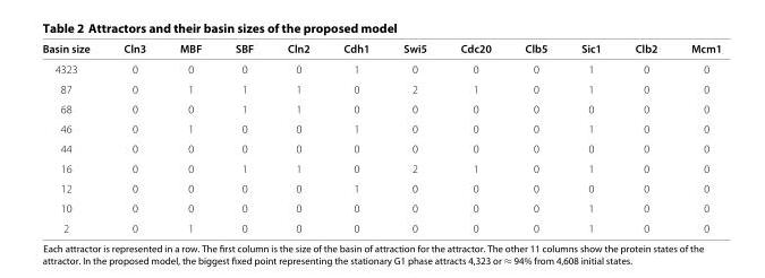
<table><thead><tr><td>Basin size</td><td>Cln3</td><td>MBF</td><td>SBF</td><td>Cln2</td><td>Cdh1</td><td>Swi5</td><td>Cdc20</td><td>Clb5</td><td>Sic1</td><td>Clb2</td><td>Mcm1</td></tr></thead><tbody><tr><td>4323</td><td>0</td><td>0</td><td>0</td><td>0</td><td>1</td><td>0</td><td>0</td><td>0</td><td>1</td><td>0</td><td>0</td></tr><tr><td>87</td><td>0</td><td>1</td><td>1</td><td>1</td><td>0</td><td>2</td><td>1</td><td>0</td><td>1</td><td>0</td><td>0</td></tr><tr><td>68</td><td>0</td><td>0</td><td>1</td><td>1</td><td>0</td><td>0</td><td>0</td><td>0</td><td>0</td><td>0</td><td>0</td></tr><tr><td>46</td><td>0</td><td>1</td><td>0</td><td>0</td><td>1</td><td>0</td><td>0</td><td>0</td><td>1</td><td>0</td><td>0</td></tr><tr><td>44</td><td>0</td><td>0</td><td>0</td><td>0</td><td>0</td><td>0</td><td>0</td><td>0</td><td>0</td><td>0</td><td>0</td></tr><tr><td>16</td><td>0</td><td>0</td><td>1</td><td>1</td><td>0</td><td>2</td><td>1</td><td>0</td><td>1</td><td>0</td><td>0</td></tr><tr><td>12</td><td>0</td><td>0</td><td>0</td><td>0</td><td>1</td><td>0</td><td>0</td><td>0</td><td>0</td><td>0</td><td>0</td></tr><tr><td>10</td><td>0</td><td>0</td><td>0</td><td>0</td><td>0</td><td>0</td><td>0</td><td>0</td><td>1</td><td>0</td><td>0</td></tr><tr><td>2</td><td>0</td><td>1</td><td>0</td><td>0</td><td>0</td><td>0</td><td>0</td><td>0</td><td>1</td><td>0</td><td>0</td></tr></tbody></table>